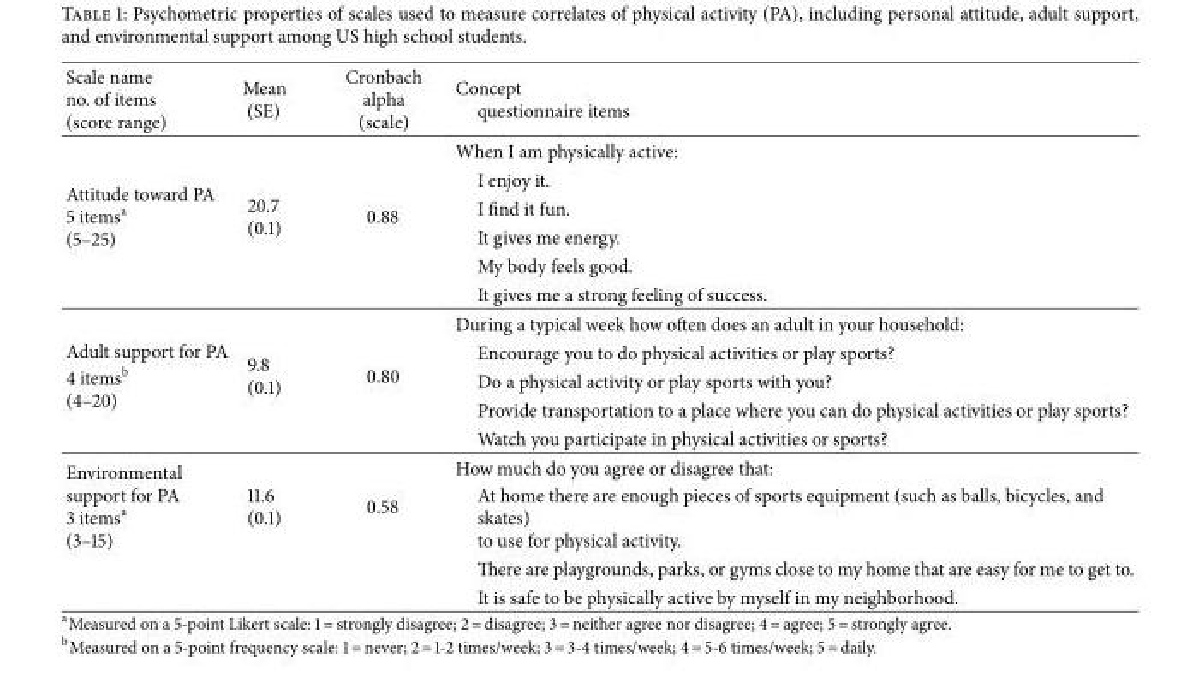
<table><thead><tr><td>Scale name no. of items (score range)</td><td>Mean (SE)</td><td>Cronbach alpha (scale)</td><td>Concept questionnaire items</td></tr></thead><tbody><tr><td rowspan="6">Attitude toward PA 5 items<sup>a</sup> (5–25)</td><td rowspan="6">20.7 (0.1)</td><td rowspan="6">0.88</td><td>When I am physically active:</td></tr><tr><td>I enjoy it.</td></tr><tr><td>I find it fun.</td></tr><tr><td>It gives me energy.</td></tr><tr><td>My body feels good.</td></tr><tr><td>It gives me a strong feeling of success.</td></tr><tr><td rowspan="5">Adult support for PA 4 items<sup>b</sup> (4–20)</td><td rowspan="5">9.8 (0.1)</td><td rowspan="5">0.80</td><td>During a typical week how often does an adult in your household:</td></tr><tr><td>Encourage you to do physical activities or play sports?</td></tr><tr><td>Do a physical activity or play sports with you?</td></tr><tr><td>Provide transportation to a place where you can do physical activities or play sports?</td></tr><tr><td>Watch you participate in physical activities or sports?</td></tr><tr><td rowspan="4">Environmental support for PA 3 items<sup>a</sup> (3–15)</td><td rowspan="4">11.6 (0.1)</td><td rowspan="4">0.58</td><td>How much do you agree or disagree that:</td></tr><tr><td>At home there are enough pieces of sports equipment (such as balls, bicycles, and skates) to use for physical activity.</td></tr><tr><td>There are playgrounds, parks, or gyms close to my home that are easy for me to get to.</td></tr><tr><td>It is safe to be physically active by myself in my neighborhood.</td></tr></tbody></table>